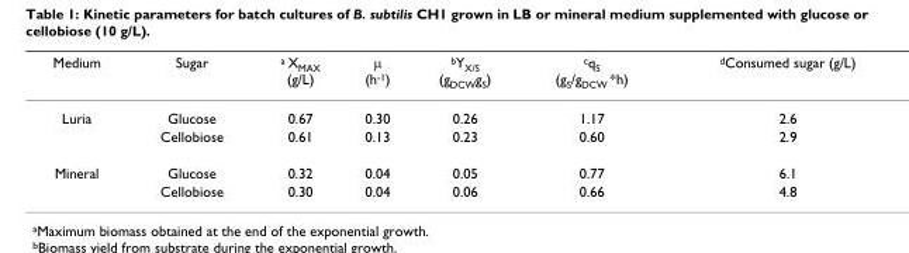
<table><thead><tr><td>Medium</td><td>Sugar</td><td><sup>a</sup> X<sub>MAX</sub> (g/L)</td><td>μ (h<sup>-1</sup>)</td><td><sup>b</sup>Y<sub>X/S</sub> (g<sub>DCW</sub>g<sub>S</sub>)</td><td><sup>c</sup>q<sub>S</sub> (g<sub>S</sub>/g<sub>DCW</sub> *h)</td><td><sup>d</sup>Consumed sugar (g/L)</td></tr></thead><tbody><tr><td rowspan="2">Luria</td><td>Glucose</td><td>0.67</td><td>0.30</td><td>0.26</td><td>1.17</td><td>2.6</td></tr><tr><td>Cellobiose</td><td>0.61</td><td>0.13</td><td>0.23</td><td>0.60</td><td>2.9</td></tr><tr><td rowspan="2">Mineral</td><td>Glucose</td><td>0.32</td><td>0.04</td><td>0.05</td><td>0.77</td><td>6.1</td></tr><tr><td>Cellobiose</td><td>0.30</td><td>0.04</td><td>0.06</td><td>0.66</td><td>4.8</td></tr></tbody></table>